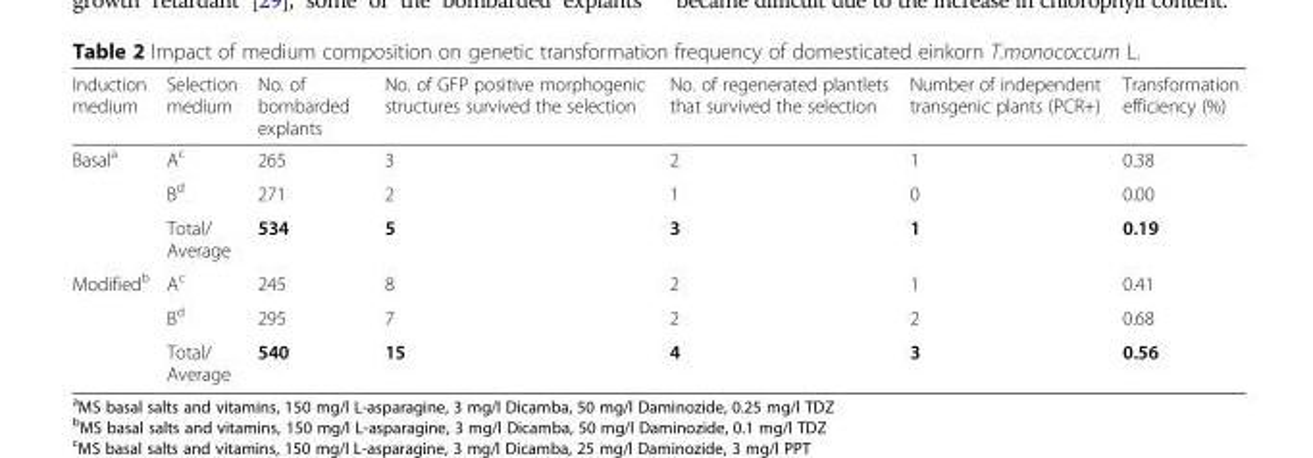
<table><thead><tr><td>Induction medium</td><td>Selection medium</td><td>No. of bombarded explants</td><td>No. of GFP positive morphogenic structures survived the selection</td><td>No. of regenerated plantlets that survived the selection</td><td>Number of independent transgenic plants (PCR+)</td><td>Transformation efficiency (%)</td></tr></thead><tbody><tr><td rowspan="3">Basal<sup>a</sup></td><td>A<sup>c</sup></td><td>265</td><td>3</td><td>2</td><td>1</td><td>0.38</td></tr><tr><td>B<sup>d</sup></td><td>271</td><td>2</td><td>1</td><td>0</td><td>0.00</td></tr><tr><td>Total/ Average</td><td>534</td><td>5</td><td>3</td><td>1</td><td>0.19</td></tr><tr><td rowspan="3">Modified<sup>b</sup></td><td>A<sup>c</sup></td><td>245</td><td>8</td><td>2</td><td>1</td><td>0.41</td></tr><tr><td>B<sup>d</sup></td><td>295</td><td>7</td><td>2</td><td>2</td><td>0.68</td></tr><tr><td>Total/ Average</td><td>540</td><td>15</td><td>4</td><td>3</td><td>0.56</td></tr></tbody></table>